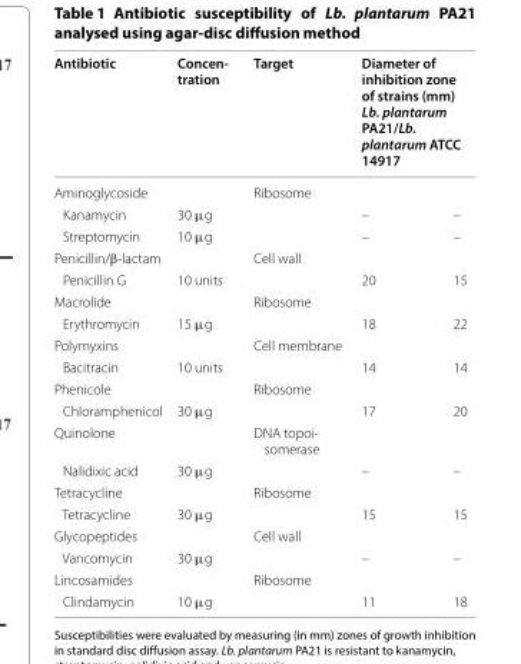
<table><thead><tr><td rowspan="2">Antibiotic Aminoglycoside</td><td rowspan="2">Concen- tration</td><td rowspan="2">Target Ribosome</td><td colspan="2">Diameter of inhibition zone of strains (mm) Lb. plantarum PA21/Lb. plantarum ATCC 14917</td></tr><tr><td></td><td></td></tr></thead><tbody><tr><td>Kanamycin</td><td>30 μg</td><td></td><td>–</td><td>–</td></tr><tr><td>Streptomycin</td><td>10 μg</td><td></td><td>–</td><td>–</td></tr><tr><td>Penicillin/β‑lactam</td><td></td><td>Cell wall</td><td></td><td></td></tr><tr><td>Penicillin G</td><td>10 units</td><td></td><td>20</td><td>15</td></tr><tr><td>Macrolide</td><td></td><td>Ribosome</td><td></td><td></td></tr><tr><td>Erythromycin</td><td>15 μg</td><td></td><td>18</td><td>22</td></tr><tr><td>Polymyxins</td><td></td><td>Cell membrane</td><td></td><td></td></tr><tr><td>Bacitracin</td><td>10 units</td><td></td><td>14</td><td>14</td></tr><tr><td>Phenicole</td><td></td><td>Ribosome</td><td></td><td></td></tr><tr><td>Chloramphenicol</td><td>30 μg</td><td></td><td>17</td><td>20</td></tr><tr><td>Quinolone</td><td></td><td>DNA topoi‑ somerase</td><td></td><td></td></tr><tr><td>Nalidixic acid</td><td>30 μg</td><td></td><td>–</td><td>–</td></tr><tr><td>Tetracycline</td><td></td><td>Ribosome</td><td></td><td></td></tr><tr><td>Tetracycline</td><td>30 μg</td><td></td><td>15</td><td>15</td></tr><tr><td>Glycopeptides</td><td></td><td>Cell wall</td><td></td><td></td></tr><tr><td>Vancomycin</td><td>30 μg</td><td></td><td>–</td><td>–</td></tr><tr><td>Lincosamides</td><td></td><td>Ribosome</td><td></td><td></td></tr><tr><td>Clindamycin</td><td>10 μg</td><td></td><td>11</td><td>18</td></tr></tbody></table>